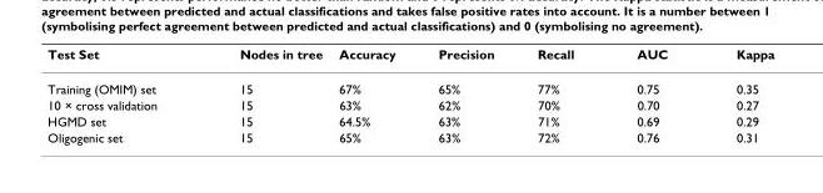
<table><thead><tr><td>Test Set</td><td>Nodes in tree</td><td>Accuracy</td><td>Precision</td><td>Recall</td><td>AUC</td><td>Kappa</td></tr></thead><tbody><tr><td>Training (OMIM) set</td><td>15</td><td>67%</td><td>65%</td><td>77%</td><td>0.75</td><td>0.35</td></tr><tr><td>10 × cross validation</td><td>15</td><td>63%</td><td>62%</td><td>70%</td><td>0.70</td><td>0.27</td></tr><tr><td>HGMD set</td><td>15</td><td>64.5%</td><td>63%</td><td>71%</td><td>0.69</td><td>0.29</td></tr><tr><td>Oligogenic set</td><td>15</td><td>65%</td><td>63%</td><td>72%</td><td>0.76</td><td>0.31</td></tr></tbody></table>